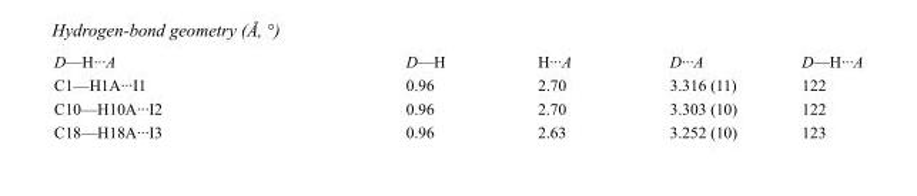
<table><tbody><tr><td>D—H···A</td><td>D—H</td><td>H···A</td><td>D···A</td><td>D—H···A</td></tr><tr><td>C1—H1A···I1</td><td>0.96</td><td>2.70</td><td>3.316 (11)</td><td>122</td></tr><tr><td>C10—H10A···I2</td><td>0.96</td><td>2.70</td><td>3.303 (10)</td><td>122</td></tr><tr><td>C18—H18A···I3</td><td>0.96</td><td>2.63</td><td>3.252 (10)</td><td>123</td></tr></tbody></table>